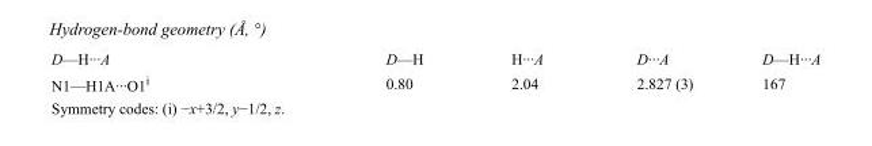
<table><tbody><tr><td>D—H···A</td><td>D—H</td><td>H···A</td><td>D···A</td><td>D—H···A</td></tr><tr><td>N1—H1A···O1<sup>i</sup></td><td>0.80</td><td>2.04</td><td>2.827 (3)</td><td>167</td></tr></tbody></table>